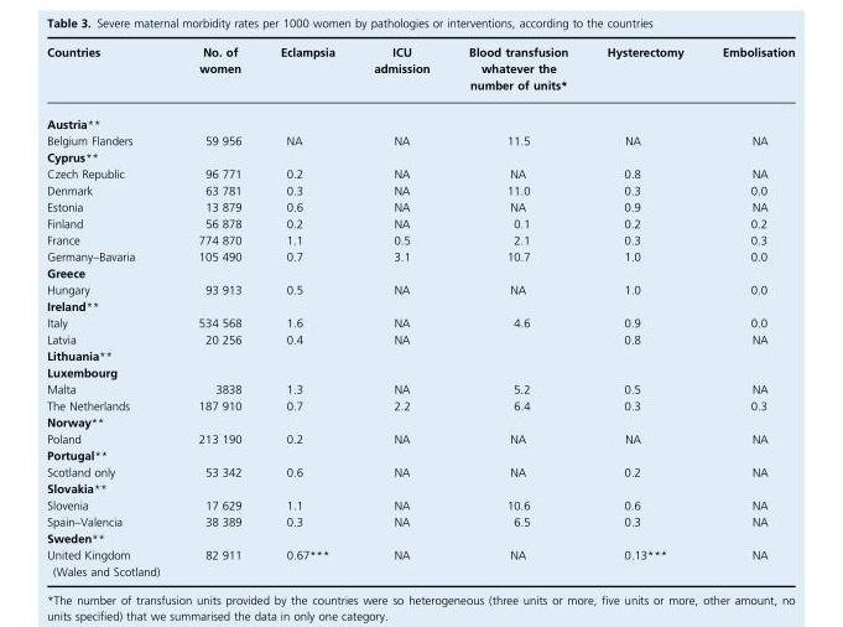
<table><thead><tr><td>Countries</td><td>No. of women</td><td>Eclampsia</td><td>ICU admission</td><td>Blood transfusion whatever the number of units*</td><td>Hysterectomy</td><td>Embolisation</td></tr></thead><tbody><tr><td colspan="7">Austria**</td></tr><tr><td>Belgium Flanders</td><td>59 956</td><td>NA</td><td>NA</td><td>11.5</td><td>NA</td><td>NA</td></tr><tr><td colspan="7">Cyprus**</td></tr><tr><td>Czech Republic</td><td>96 771</td><td>0.2</td><td>NA</td><td>NA</td><td>0.8</td><td>NA</td></tr><tr><td>Denmark</td><td>63 781</td><td>0.3</td><td>NA</td><td>11.0</td><td>0.3</td><td>0.0</td></tr><tr><td>Estonia</td><td>13 879</td><td>0.6</td><td>NA</td><td>NA</td><td>0.9</td><td>NA</td></tr><tr><td>Finland</td><td>56 878</td><td>0.2</td><td>NA</td><td>0.1</td><td>0.2</td><td>0.2</td></tr><tr><td>France</td><td>774 870</td><td>1.1</td><td>0.5</td><td>2.1</td><td>0.3</td><td>0.3</td></tr><tr><td>Germany–Bavaria</td><td>105 490</td><td>0.7</td><td>3.1</td><td>10.7</td><td>1.0</td><td>0.0</td></tr><tr><td colspan="7">Greece</td></tr><tr><td>Hungary</td><td>93 913</td><td>0.5</td><td>NA</td><td>NA</td><td>1.0</td><td>0.0</td></tr><tr><td colspan="7">Ireland**</td></tr><tr><td>Italy</td><td>534 568</td><td>1.6</td><td>NA</td><td>4.6</td><td>0.9</td><td>0.0</td></tr><tr><td>Latvia</td><td>20 256</td><td>0.4</td><td>NA</td><td></td><td>0.8</td><td>NA</td></tr><tr><td colspan="7">Lithuania**</td></tr><tr><td colspan="7">Luxembourg</td></tr><tr><td>Malta</td><td>3838</td><td>1.3</td><td>NA</td><td>5.2</td><td>0.5</td><td>NA</td></tr><tr><td>The Netherlands</td><td>187 910</td><td>0.7</td><td>2.2</td><td>6.4</td><td>0.3</td><td>0.3</td></tr><tr><td colspan="7">Norway**</td></tr><tr><td>Poland</td><td>213 190</td><td>0.2</td><td>NA</td><td>NA</td><td>NA</td><td>NA</td></tr><tr><td colspan="7">Portugal**</td></tr><tr><td>Scotland only</td><td>53 342</td><td>0.6</td><td>NA</td><td>NA</td><td>0.2</td><td>NA</td></tr><tr><td colspan="7">Slovakia**</td></tr><tr><td>Slovenia</td><td>17 629</td><td>1.1</td><td>NA</td><td>10.6</td><td>0.6</td><td>NA</td></tr><tr><td>Spain–Valencia</td><td>38 389</td><td>0.3</td><td>NA</td><td>6.5</td><td>0.3</td><td>NA</td></tr><tr><td colspan="7">Sweden**</td></tr><tr><td>United Kingdom (Wales and Scotland)</td><td>82 911</td><td>0.67***</td><td>NA</td><td>NA</td><td>0.13***</td><td>NA</td></tr></tbody></table>